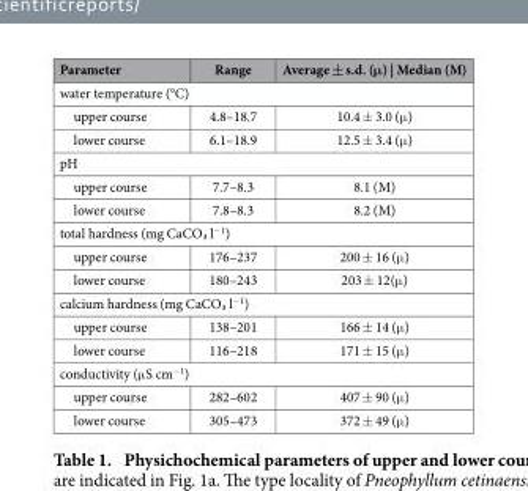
<table><thead><tr><td>Parameter</td><td>Range</td><td>Average ± s.d. (μ) | Median (M)</td></tr></thead><tbody><tr><td colspan="3">water temperature (°C)</td></tr><tr><td>upper course</td><td>4.8–18.7</td><td>10.4 ± 3.0 (μ )</td></tr><tr><td>lower course</td><td>6.1–18.9</td><td>12.5 ± 3.4 (μ )</td></tr><tr><td colspan="3">pH</td></tr><tr><td>upper course</td><td>7.7–8.3</td><td>8.1 (M)</td></tr><tr><td>lower course</td><td>7.8–8.3</td><td>8.2 (M)</td></tr><tr><td colspan="3">total hardness (mg CaCO₃ l−1)</td></tr><tr><td>upper course</td><td>176–237</td><td>200 ± 16 (μ )</td></tr><tr><td>lower course</td><td>180–243</td><td>203 ± 12(μ )</td></tr><tr><td colspan="3">calcium hardness (mg CaCO₃ l−1)</td></tr><tr><td>upper course</td><td>138–201</td><td>166 ± 14 (μ )</td></tr><tr><td>lower course</td><td>116–218</td><td>171 ± 15 (μ )</td></tr><tr><td colspan="3">conductivity (μ S cm<sup>−1</sup>)</td></tr><tr><td>upper course</td><td>282–602</td><td>407 ± 90 (μ )</td></tr><tr><td>lower course</td><td>305–473</td><td>372 ± 49 (μ )</td></tr></tbody></table>